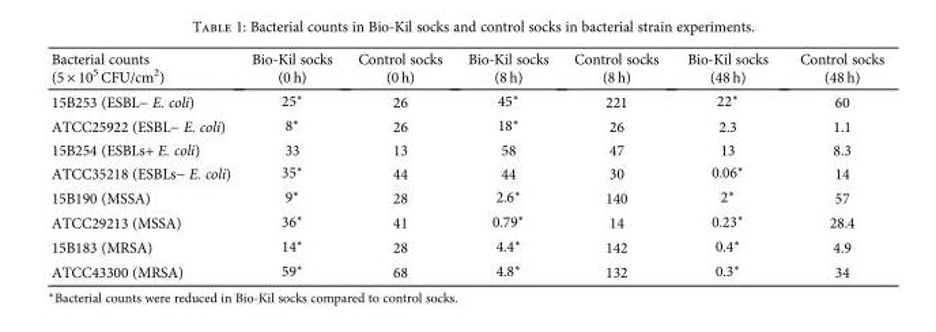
<table><thead><tr><td>Bacterial counts (5 × 10<sup>5</sup> CFU/cm<sup>2</sup>)</td><td>Bio-Kil socks (0 h)</td><td>Control socks (0 h)</td><td>Bio-Kil socks (8 h)</td><td>Control socks (8 h)</td><td>Bio-Kil socks (48 h)</td><td>Control socks (48 h)</td></tr></thead><tbody><tr><td>15B253 (ESBL− E. coli)</td><td>25∗</td><td>26</td><td>45∗</td><td>221</td><td>22∗</td><td>60</td></tr><tr><td>ATCC25922 (ESBL− E. coli)</td><td>8∗</td><td>26</td><td>18∗</td><td>26</td><td>2.3</td><td>1.1</td></tr><tr><td>15B254 (ESBLs+ E. coli)</td><td>33</td><td>13</td><td>58</td><td>47</td><td>13</td><td>8.3</td></tr><tr><td>ATCC35218 (ESBLs− E. coli)</td><td>35∗</td><td>44</td><td>44</td><td>30</td><td>0.06∗</td><td>14</td></tr><tr><td>15B190 (MSSA)</td><td>9∗</td><td>28</td><td>2.6∗</td><td>140</td><td>2∗</td><td>57</td></tr><tr><td>ATCC29213 (MSSA)</td><td>36∗</td><td>41</td><td>0.79∗</td><td>14</td><td>0.23∗</td><td>28.4</td></tr><tr><td>15B183 (MRSA)</td><td>14∗</td><td>28</td><td>4.4∗</td><td>142</td><td>0.4∗</td><td>4.9</td></tr><tr><td>ATCC43300 (MRSA)</td><td>59∗</td><td>68</td><td>4.8∗</td><td>132</td><td>0.3∗</td><td>34</td></tr></tbody></table>